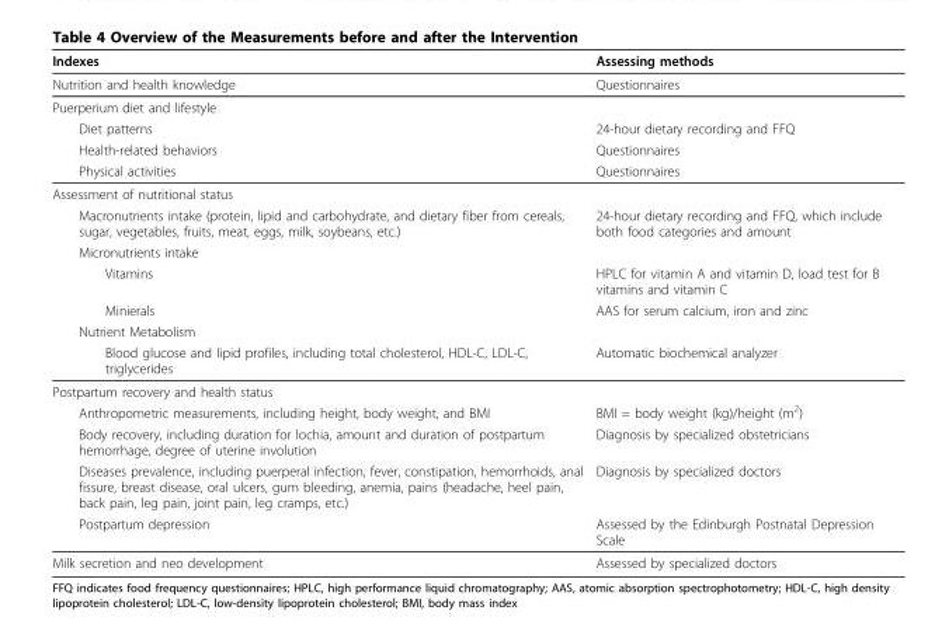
<table><thead><tr><td>Indexes</td><td>Assessing methods</td></tr></thead><tbody><tr><td>Nutrition and health knowledge</td><td>Questionnaires</td></tr><tr><td colspan="2">Puerperium diet and lifestyle</td></tr><tr><td>Diet patterns</td><td>24-hour dietary recording and FFQ</td></tr><tr><td>Health-related behaviors</td><td>Questionnaires</td></tr><tr><td>Physical activities</td><td>Questionnaires</td></tr><tr><td colspan="2">Assessment of nutritional status</td></tr><tr><td>Macronutrients intake (protein, lipid and carbohydrate, and dietary fiber from cereals, sugar, vegetables, fruits, meat, eggs, milk, soybeans, etc.)</td><td>24-hour dietary recording and FFQ, which include both food categories and amount</td></tr><tr><td colspan="2">Micronutrients intake</td></tr><tr><td>Vitamins</td><td>HPLC for vitamin A and vitamin D, load test for B vitamins and vitamin C</td></tr><tr><td>Minierals</td><td>AAS for serum calcium, iron and zinc</td></tr><tr><td colspan="2">Nutrient Metabolism</td></tr><tr><td>Blood glucose and lipid profiles, including total cholesterol, HDL-C, LDL-C, triglycerides</td><td>Automatic biochemical analyzer</td></tr><tr><td colspan="2">Postpartum recovery and health status</td></tr><tr><td>Anthropometric measurements, including height, body weight, and BMI</td><td>BMI = body weight (kg)/height (m<sup>2</sup>)</td></tr><tr><td>Body recovery, including duration for lochia, amount and duration of postpartum hemorrhage, degree of uterine involution</td><td>Diagnosis by specialized obstetricians</td></tr><tr><td>Diseases prevalence, including puerperal infection, fever, constipation, hemorrhoids, anal fissure, breast disease, oral ulcers, gum bleeding, anemia, pains (headache, heel pain, back pain, leg pain, joint pain, leg cramps, etc.)</td><td>Diagnosis by specialized doctors</td></tr><tr><td>Postpartum depression</td><td>Assessed by the Edinburgh Postnatal Depression Scale</td></tr><tr><td>Milk secretion and neo development</td><td>Assessed by specialized doctors</td></tr></tbody></table>